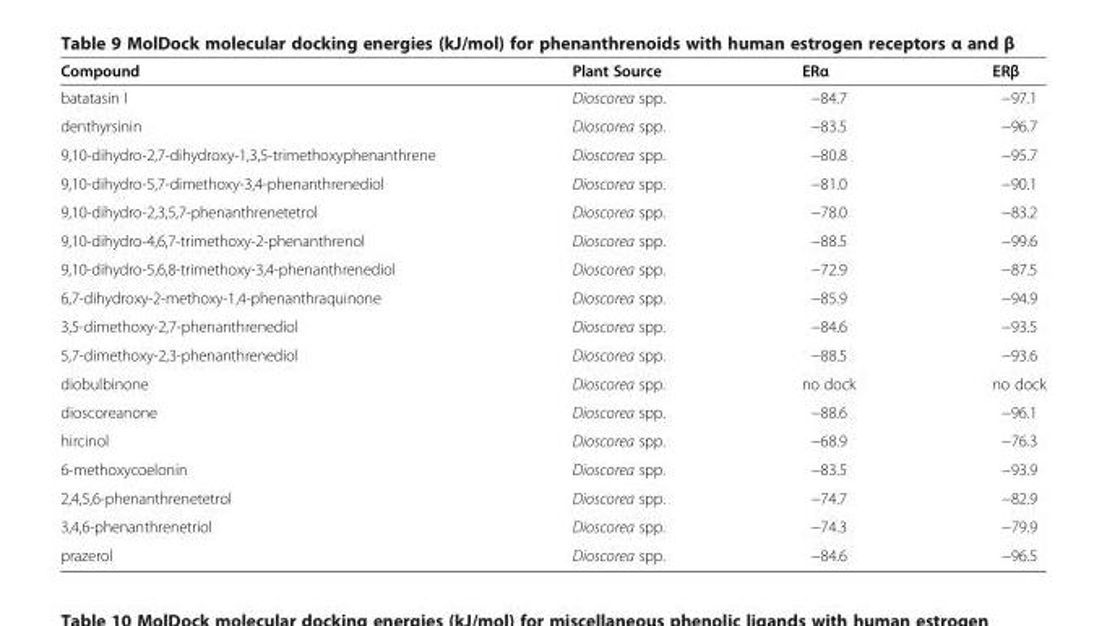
<table><thead><tr><td>Compound</td><td>Plant Source</td><td>ERα</td><td>ERβ</td></tr></thead><tbody><tr><td>batatasin I</td><td>Dioscorea spp.</td><td>−84.7</td><td>−97.1</td></tr><tr><td>denthyrsinin</td><td>Dioscorea spp.</td><td>−83.5</td><td>−96.7</td></tr><tr><td>9,10-dihydro-2,7-dihydroxy-1,3,5-trimethoxyphenanthrene</td><td>Dioscorea spp.</td><td>−80.8</td><td>−95.7</td></tr><tr><td>9,10-dihydro-5,7-dimethoxy-3,4-phenanthrenediol</td><td>Dioscorea spp.</td><td>−81.0</td><td>−90.1</td></tr><tr><td>9,10-dihydro-2,3,5,7-phenanthrenetetrol</td><td>Dioscorea spp.</td><td>−78.0</td><td>−83.2</td></tr><tr><td>9,10-dihydro-4,6,7-trimethoxy-2-phenanthrenol</td><td>Dioscorea spp.</td><td>−88.5</td><td>−99.6</td></tr><tr><td>9,10-dihydro-5,6,8-trimethoxy-3,4-phenanthrenediol</td><td>Dioscorea spp.</td><td>−72.9</td><td>−87.5</td></tr><tr><td>6,7-dihydroxy-2-methoxy-1,4-phenanthraquinone</td><td>Dioscorea spp.</td><td>−85.9</td><td>−94.9</td></tr><tr><td>3,5-dimethoxy-2,7-phenanthrenediol</td><td>Dioscorea spp.</td><td>−84.6</td><td>−93.5</td></tr><tr><td>5,7-dimethoxy-2,3-phenanthrenediol</td><td>Dioscorea spp.</td><td>−88.5</td><td>−93.6</td></tr><tr><td>diobulbinone</td><td>Dioscorea spp.</td><td>no dock</td><td>no dock</td></tr><tr><td>dioscoreanone</td><td>Dioscorea spp.</td><td>−88.6</td><td>−96.1</td></tr><tr><td>hircinol</td><td>Dioscorea spp.</td><td>−68.9</td><td>−76.3</td></tr><tr><td>6-methoxycoelonin</td><td>Dioscorea spp.</td><td>−83.5</td><td>−93.9</td></tr><tr><td>2,4,5,6-phenanthrenetetrol</td><td>Dioscorea spp.</td><td>−74.7</td><td>−82.9</td></tr><tr><td>3,4,6-phenanthrenetriol</td><td>Dioscorea spp.</td><td>−74.3</td><td>−79.9</td></tr><tr><td>prazerol</td><td>Dioscorea spp.</td><td>−84.6</td><td>−96.5</td></tr></tbody></table>